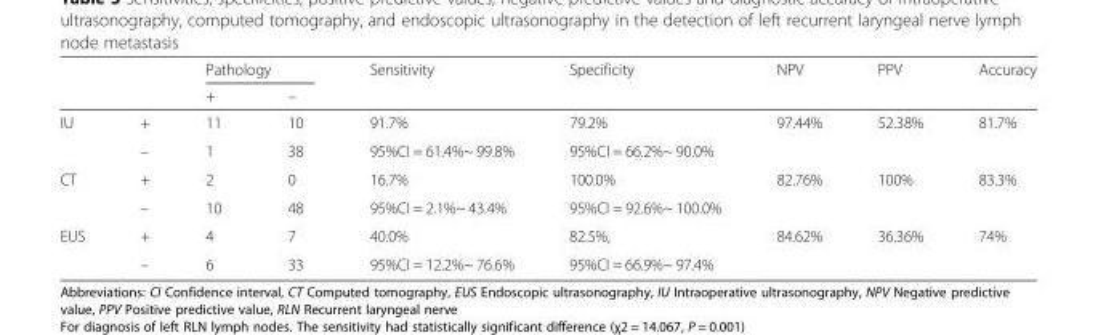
<table><thead><tr><td rowspan="2"></td><td rowspan="2"></td><td colspan="2">Pathology</td><td rowspan="2">Sensitivity</td><td rowspan="2">Specificity</td><td rowspan="2">NPV</td><td rowspan="2">PPV</td><td rowspan="2">Accuracy</td></tr><tr><td>+</td><td>–</td></tr></thead><tbody><tr><td rowspan="2">IU</td><td>+</td><td>11</td><td>10</td><td>91.7%</td><td>79.2%</td><td>97.44%</td><td>52.38%</td><td>81.7%</td></tr><tr><td>–</td><td>1</td><td>38</td><td>95%CI = 61.4%~ 99.8%</td><td>95%CI = 66.2%~ 90.0%</td><td colspan="3"></td></tr><tr><td rowspan="2">CT</td><td>+</td><td>2</td><td>0</td><td>16.7%</td><td>100.0%</td><td>82.76%</td><td>100%</td><td>83.3%</td></tr><tr><td>–</td><td>10</td><td>48</td><td>95%CI = 2.1%~ 43.4%</td><td>95%CI = 92.6%~ 100.0%</td><td colspan="3"></td></tr><tr><td rowspan="2">EUS</td><td>+</td><td>4</td><td>7</td><td>40.0%</td><td>82.5%,</td><td>84.62%</td><td>36.36%</td><td>74%</td></tr><tr><td>–</td><td>6</td><td>33</td><td>95%CI = 12.2%~ 76.6%</td><td>95%CI = 66.9%~ 97.4%</td><td colspan="3"></td></tr></tbody></table>